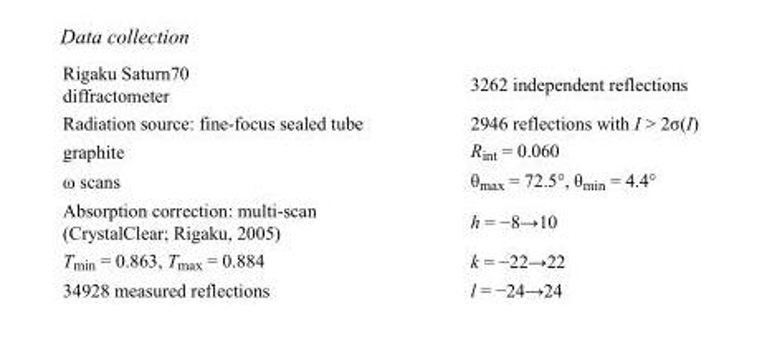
<table><tbody><tr><td>Rigaku Saturn70 diffractometer</td><td>3262 independent reflections</td></tr><tr><td>Radiation source: fine-focus sealed tube</td><td>2946 reflections with I &gt; 2σ(I)</td></tr><tr><td>graphite</td><td>R<sub>int</sub> = 0.060</td></tr><tr><td>ω scans</td><td>θ<sub>max</sub> = 72.5°, θ<sub>min</sub> = 4.4°</td></tr><tr><td>Absorption correction: multi-scan (CrystalClear; Rigaku, 2005)</td><td>h = −8→10</td></tr><tr><td>T<sub>min</sub> = 0.863, T<sub>max</sub> = 0.884</td><td>k = −22→22</td></tr><tr><td>34928 measured reflections</td><td>l = −24→24</td></tr></tbody></table>